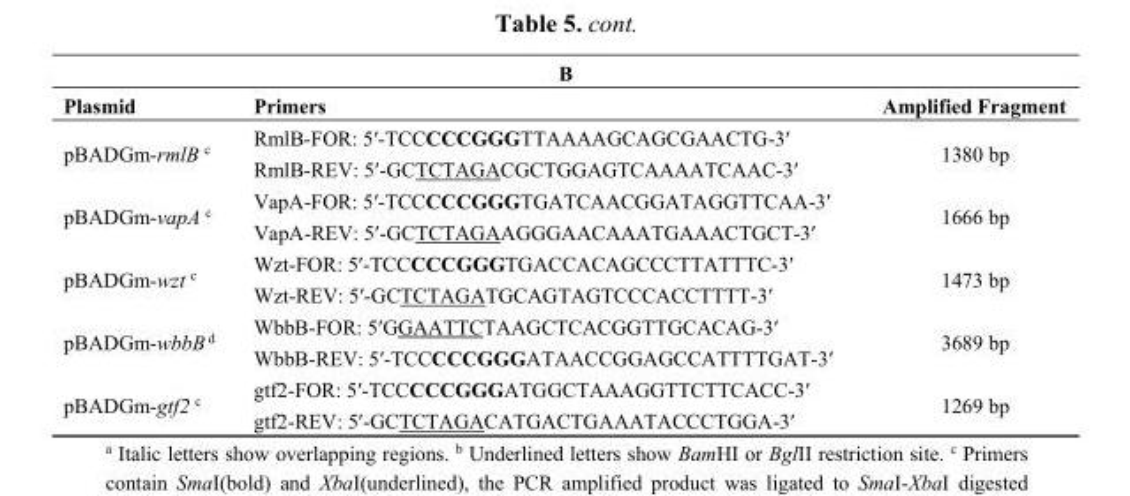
<table><thead><tr><td colspan="3">B</td></tr><tr><td>Plasmid</td><td>Primers</td><td>Amplified Fragment</td></tr></thead><tbody><tr><td rowspan="2">pBADGm-rmlB <sup>c</sup></td><td>RmlB-FOR: 5′-TCCCCCGGGTTAAAAGCAGCGAACTG-3′</td><td rowspan="2">1380 bp</td></tr><tr><td>RmlB-REV: 5′-GCTCTAGACGCTGGAGTCAAAATCAAC-3′</td></tr><tr><td rowspan="2">pBADGm-vapA <sup>c</sup></td><td>VapA-FOR: 5′-TCCCCCGGGTGATCAACGGATAGGTTCAA-3′</td><td rowspan="2">1666 bp</td></tr><tr><td>VapA-REV: 5′-GCTCTAGAAGGGAACAAATGAAACTGCT-3′</td></tr><tr><td rowspan="2">pBADGm-wzt <sup>c</sup></td><td>Wzt-FOR: 5′-TCCCCCGGGTGACCACAGCCCTTATTTC-3′</td><td rowspan="2">1473 bp</td></tr><tr><td>Wzt-REV: 5′-GCTCTAGATGCAGTAGTCCCACCTTTT-3′</td></tr><tr><td rowspan="2">pBADGm-wbbB <sup>d</sup></td><td>WbbB-FOR: 5′GGAATTCTAAGCTCACGGTTGCACAG-3′</td><td rowspan="2">3689 bp</td></tr><tr><td>WbbB-REV: 5′-TCCCCCGGGATAACCGGAGCCATTTTGAT-3′</td></tr><tr><td rowspan="2">pBADGm-gtf2 <sup>c</sup></td><td>gtf2-FOR: 5′-TCCCCCGGGATGGCTAAAGGTTCTTCACC-3′</td><td rowspan="2">1269 bp</td></tr><tr><td>gtf2-REV: 5′-GCTCTAGACATGACTGAAATACCCTGGA-3′</td></tr></tbody></table>